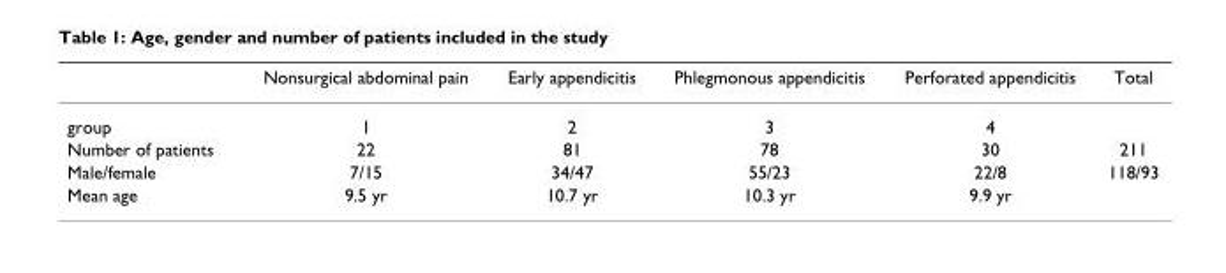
<table><thead><tr><td></td><td>Nonsurgical abdominal pain</td><td>Early appendicitis</td><td>Phlegmonous appendicitis</td><td>Perforated appendicitis</td><td>Total</td></tr></thead><tbody><tr><td>group</td><td>1</td><td>2</td><td>3</td><td>4</td><td></td></tr><tr><td>Number of patients</td><td>22</td><td>81</td><td>78</td><td>30</td><td>211</td></tr><tr><td>Male/female</td><td>7/15</td><td>34/47</td><td>55/23</td><td>22/8</td><td>118/93</td></tr><tr><td>Mean age</td><td>9.5 yr</td><td>10.7 yr</td><td>10.3 yr</td><td>9.9 yr</td><td></td></tr></tbody></table>